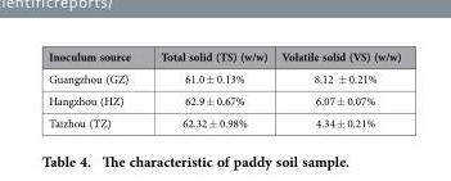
<table><thead><tr><td>Inoculum source</td><td>Total solid (TS) (w/w)</td><td>Volatile solid (VS) (w/w)</td></tr></thead><tbody><tr><td>Guangzhou (GZ)</td><td>61.0 ± 0.13%</td><td>8.12 ± 0.21%</td></tr><tr><td>Hangzhou (HZ)</td><td>62.9 ± 0.67%</td><td>6.07 ± 0.07%</td></tr><tr><td>Taizhou (TZ)</td><td>62.32 ± 0.98%</td><td>4.34 ± 0.21%</td></tr></tbody></table>